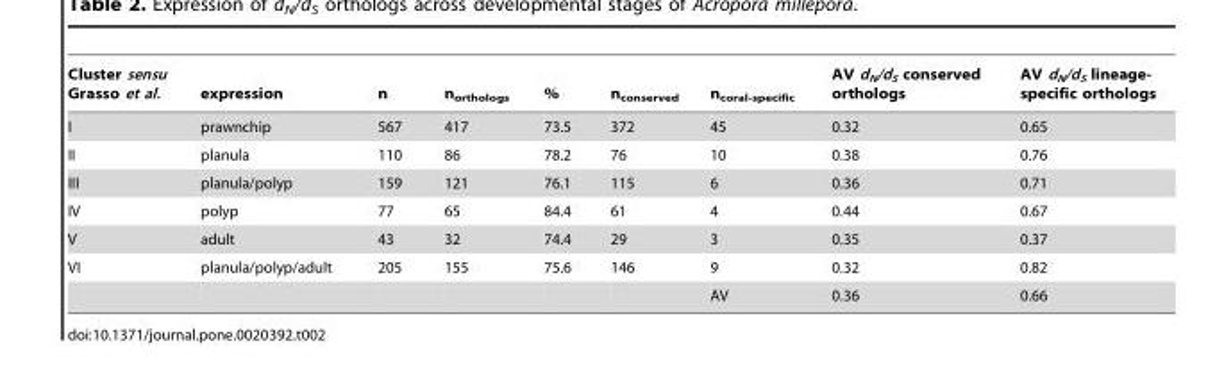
<table><thead><tr><td>Cluster sensu Grasso et al.</td><td>expression</td><td>n</td><td>n<sub>orthologs</sub></td><td>%</td><td>n<sub>conserved</sub></td><td>n<sub>coral-specific</sub></td><td>AV d<sub>N</sub>/d<sub>S</sub> conserved orthologs</td><td>AV d<sub>N</sub>/d<sub>S</sub> lineage- specific orthologs</td></tr></thead><tbody><tr><td>I</td><td>prawnchip</td><td>567</td><td>417</td><td>73.5</td><td>372</td><td>45</td><td>0.32</td><td>0.65</td></tr><tr><td>II</td><td>planula</td><td>110</td><td>86</td><td>78.2</td><td>76</td><td>10</td><td>0.38</td><td>0.76</td></tr><tr><td>III</td><td>planula/polyp</td><td>159</td><td>121</td><td>76.1</td><td>115</td><td>6</td><td>0.36</td><td>0.71</td></tr><tr><td>IV</td><td>polyp</td><td>77</td><td>65</td><td>84.4</td><td>61</td><td>4</td><td>0.44</td><td>0.67</td></tr><tr><td>V</td><td>adult</td><td>43</td><td>32</td><td>74.4</td><td>29</td><td>3</td><td>0.35</td><td>0.37</td></tr><tr><td rowspan="2">VI</td><td>planula/polyp/adult</td><td>205</td><td>155</td><td>75.6</td><td>146</td><td>9</td><td>0.32</td><td>0.82</td></tr><tr><td></td><td></td><td></td><td></td><td></td><td>AV</td><td>0.36</td><td>0.66</td></tr></tbody></table>